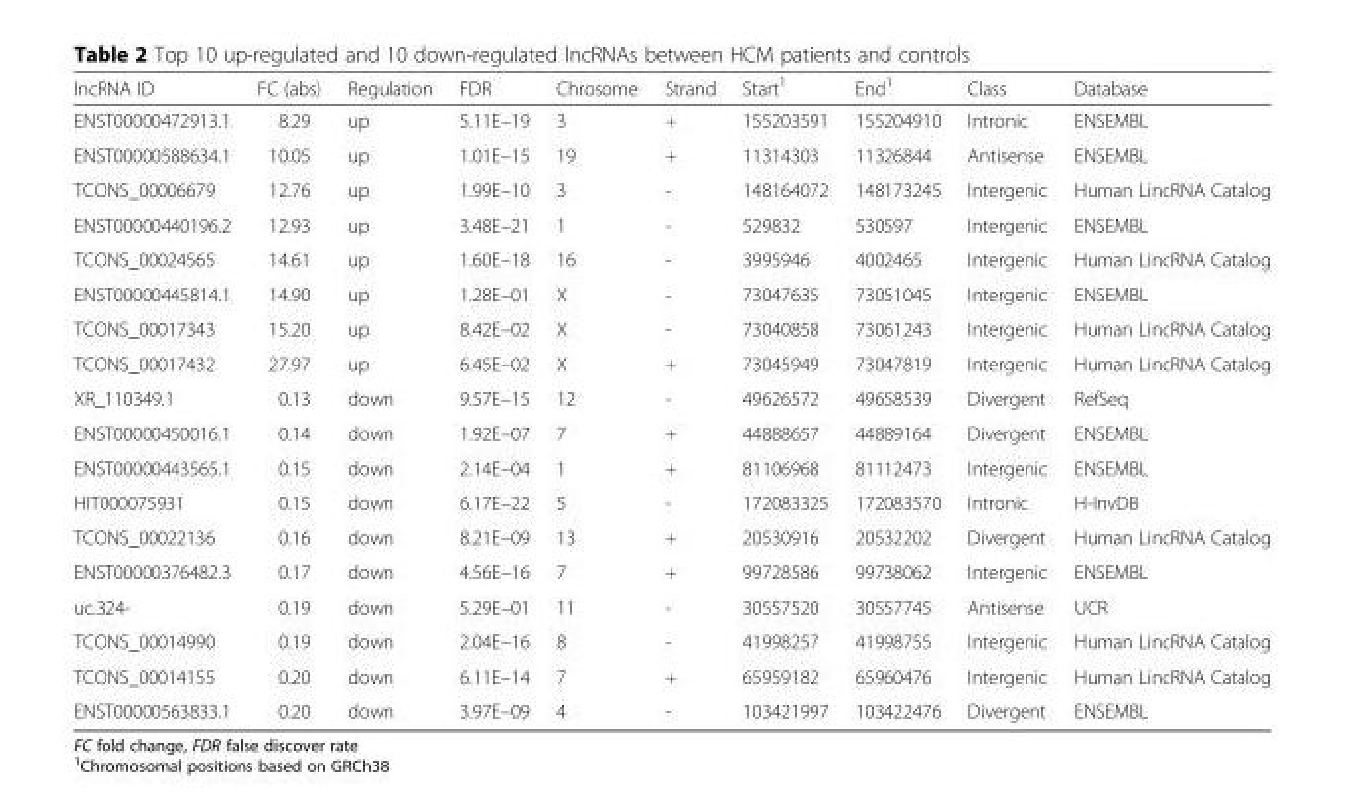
<table><thead><tr><td>lncRNA ID</td><td>FC (abs)</td><td>Regulation</td><td>FDR</td><td>Chrosome</td><td>Strand</td><td>Start<sup>1</sup></td><td>End<sup>1</sup></td><td>Class</td><td>Database</td></tr></thead><tbody><tr><td>ENST00000472913.1</td><td>8.29</td><td>up</td><td>5.11E–19</td><td>3</td><td>+</td><td>155203591</td><td>155204910</td><td>Intronic</td><td>ENSEMBL</td></tr><tr><td>ENST00000588634.1</td><td>10.05</td><td>up</td><td>1.01E–15</td><td>19</td><td>+</td><td>11314303</td><td>11326844</td><td>Antisense</td><td>ENSEMBL</td></tr><tr><td>TCONS_00006679</td><td>12.76</td><td>up</td><td>1.99E–10</td><td>3</td><td>-</td><td>148164072</td><td>148173245</td><td>Intergenic</td><td>Human LincRNA Catalog</td></tr><tr><td>ENST00000440196.2</td><td>12.93</td><td>up</td><td>3.48E–21</td><td>1</td><td>-</td><td>529832</td><td>530597</td><td>Intergenic</td><td>ENSEMBL</td></tr><tr><td>TCONS_00024565</td><td>14.61</td><td>up</td><td>1.60E–18</td><td>16</td><td>-</td><td>3995946</td><td>4002465</td><td>Intergenic</td><td>Human LincRNA Catalog</td></tr><tr><td>ENST00000445814.1</td><td>14.90</td><td>up</td><td>1.28E–01</td><td>X</td><td>-</td><td>73047635</td><td>73051045</td><td>Intergenic</td><td>ENSEMBL</td></tr><tr><td>TCONS_00017343</td><td>15.20</td><td>up</td><td>8.42E–02</td><td>X</td><td>-</td><td>73040858</td><td>73061243</td><td>Intergenic</td><td>Human LincRNA Catalog</td></tr><tr><td>TCONS_00017432</td><td>27.97</td><td>up</td><td>6.45E–02</td><td>X</td><td>+</td><td>73045949</td><td>73047819</td><td>Intergenic</td><td>Human LincRNA Catalog</td></tr><tr><td>XR_110349.1</td><td>0.13</td><td>down</td><td>9.57E–15</td><td>12</td><td>-</td><td>49626572</td><td>49658539</td><td>Divergent</td><td>RefSeq</td></tr><tr><td>ENST00000450016.1</td><td>0.14</td><td>down</td><td>1.92E–07</td><td>7</td><td>+</td><td>44888657</td><td>44889164</td><td>Divergent</td><td>ENSEMBL</td></tr><tr><td>ENST00000443565.1</td><td>0.15</td><td>down</td><td>2.14E–04</td><td>1</td><td>+</td><td>81106968</td><td>81112473</td><td>Intergenic</td><td>ENSEMBL</td></tr><tr><td>HIT000075931</td><td>0.15</td><td>down</td><td>6.17E–22</td><td>5</td><td>-</td><td>172083325</td><td>172083570</td><td>Intronic</td><td>H-InvDB</td></tr><tr><td>TCONS_00022136</td><td>0.16</td><td>down</td><td>8.21E–09</td><td>13</td><td>+</td><td>20530916</td><td>20532202</td><td>Divergent</td><td>Human LincRNA Catalog</td></tr><tr><td>ENST00000376482.3</td><td>0.17</td><td>down</td><td>4.56E–16</td><td>7</td><td>+</td><td>99728586</td><td>99738062</td><td>Intergenic</td><td>ENSEMBL</td></tr><tr><td>uc.324-</td><td>0.19</td><td>down</td><td>5.29E–01</td><td>11</td><td>-</td><td>30557520</td><td>30557745</td><td>Antisense</td><td>UCR</td></tr><tr><td>TCONS_00014990</td><td>0.19</td><td>down</td><td>2.04E–16</td><td>8</td><td>-</td><td>41998257</td><td>41998755</td><td>Intergenic</td><td>Human LincRNA Catalog</td></tr><tr><td>TCONS_00014155</td><td>0.20</td><td>down</td><td>6.11E–14</td><td>7</td><td>+</td><td>65959182</td><td>65960476</td><td>Intergenic</td><td>Human LincRNA Catalog</td></tr><tr><td>ENST00000563833.1</td><td>0.20</td><td>down</td><td>3.97E–09</td><td>4</td><td>-</td><td>103421997</td><td>103422476</td><td>Divergent</td><td>ENSEMBL</td></tr></tbody></table>